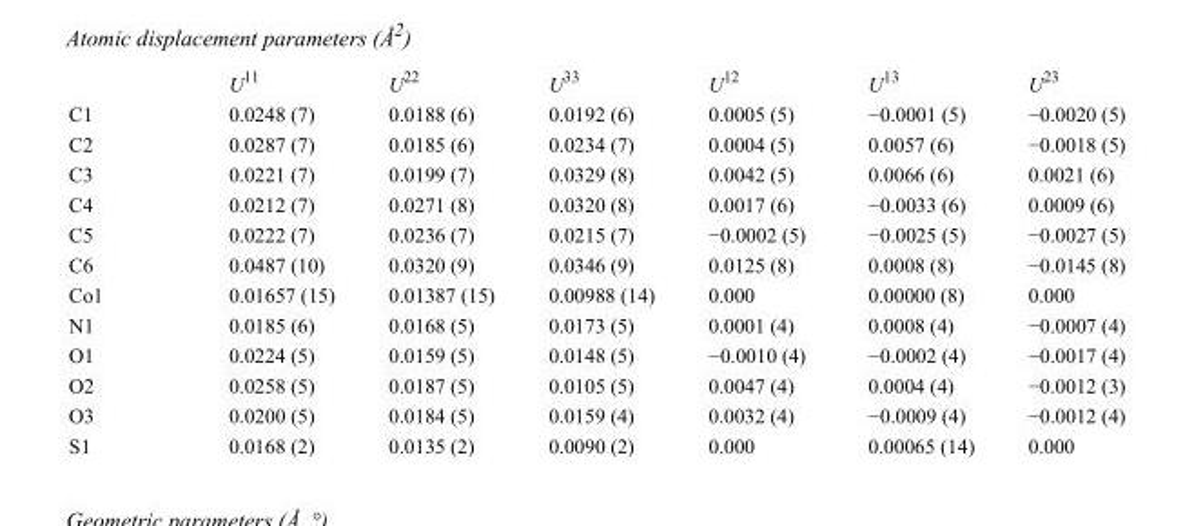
<table><thead><tr><td></td><td>U<sup>11</sup></td><td>U<sup>22</sup></td><td>U<sup>33</sup></td><td>U<sup>12</sup></td><td>U<sup>13</sup></td><td>U<sup>23</sup></td></tr></thead><tbody><tr><td>C1</td><td>0.0248 (7)</td><td>0.0188 (6)</td><td>0.0192 (6)</td><td>0.0005 (5)</td><td>−0.0001 (5)</td><td>−0.0020 (5)</td></tr><tr><td>C2</td><td>0.0287 (7)</td><td>0.0185 (6)</td><td>0.0234 (7)</td><td>0.0004 (5)</td><td>0.0057 (6)</td><td>−0.0018 (5)</td></tr><tr><td>C3</td><td>0.0221 (7)</td><td>0.0199 (7)</td><td>0.0329 (8)</td><td>0.0042 (5)</td><td>0.0066 (6)</td><td>0.0021 (6)</td></tr><tr><td>C4</td><td>0.0212 (7)</td><td>0.0271 (8)</td><td>0.0320 (8)</td><td>0.0017 (6)</td><td>−0.0033 (6)</td><td>0.0009 (6)</td></tr><tr><td>C5</td><td>0.0222 (7)</td><td>0.0236 (7)</td><td>0.0215 (7)</td><td>−0.0002 (5)</td><td>−0.0025 (5)</td><td>−0.0027 (5)</td></tr><tr><td>C6</td><td>0.0487 (10)</td><td>0.0320 (9)</td><td>0.0346 (9)</td><td>0.0125 (8)</td><td>0.0008 (8)</td><td>−0.0145 (8)</td></tr><tr><td>Co1</td><td>0.01657 (15)</td><td>0.01387 (15)</td><td>0.00988 (14)</td><td>0.000</td><td>0.00000 (8)</td><td>0.000</td></tr><tr><td>N1</td><td>0.0185 (6)</td><td>0.0168 (5)</td><td>0.0173 (5)</td><td>0.0001 (4)</td><td>0.0008 (4)</td><td>−0.0007 (4)</td></tr><tr><td>O1</td><td>0.0224 (5)</td><td>0.0159 (5)</td><td>0.0148 (5)</td><td>−0.0010 (4)</td><td>−0.0002 (4)</td><td>−0.0017 (4)</td></tr><tr><td>O2</td><td>0.0258 (5)</td><td>0.0187 (5)</td><td>0.0105 (5)</td><td>0.0047 (4)</td><td>0.0004 (4)</td><td>−0.0012 (3)</td></tr><tr><td>O3</td><td>0.0200 (5)</td><td>0.0184 (5)</td><td>0.0159 (4)</td><td>0.0032 (4)</td><td>−0.0009 (4)</td><td>−0.0012 (4)</td></tr><tr><td>S1</td><td>0.0168 (2)</td><td>0.0135 (2)</td><td>0.0090 (2)</td><td>0.000</td><td>0.00065 (14)</td><td>0.000</td></tr></tbody></table>